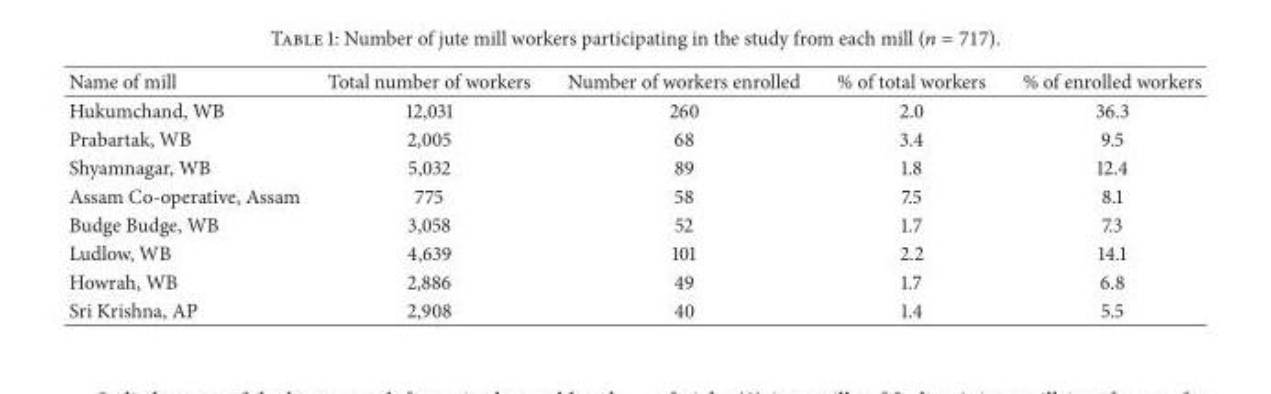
<table><thead><tr><td>Name of mill</td><td>Total number of workers</td><td>Number of workers enrolled</td><td>% of total workers</td><td>% of enrolled workers</td></tr></thead><tbody><tr><td>Hukumchand, WB</td><td>12,031</td><td>260</td><td>2.0</td><td>36.3</td></tr><tr><td>Prabartak, WB</td><td>2,005</td><td>68</td><td>3.4</td><td>9.5</td></tr><tr><td>Shyamnagar, WB</td><td>5,032</td><td>89</td><td>1.8</td><td>12.4</td></tr><tr><td>Assam Co-operative, Assam</td><td>775</td><td>58</td><td>7.5</td><td>8.1</td></tr><tr><td>Budge Budge, WB</td><td>3,058</td><td>52</td><td>1.7</td><td>7.3</td></tr><tr><td>Ludlow, WB</td><td>4,639</td><td>101</td><td>2.2</td><td>14.1</td></tr><tr><td>Howrah, WB</td><td>2,886</td><td>49</td><td>1.7</td><td>6.8</td></tr><tr><td>Sri Krishna, AP</td><td>2,908</td><td>40</td><td>1.4</td><td>5.5</td></tr></tbody></table>